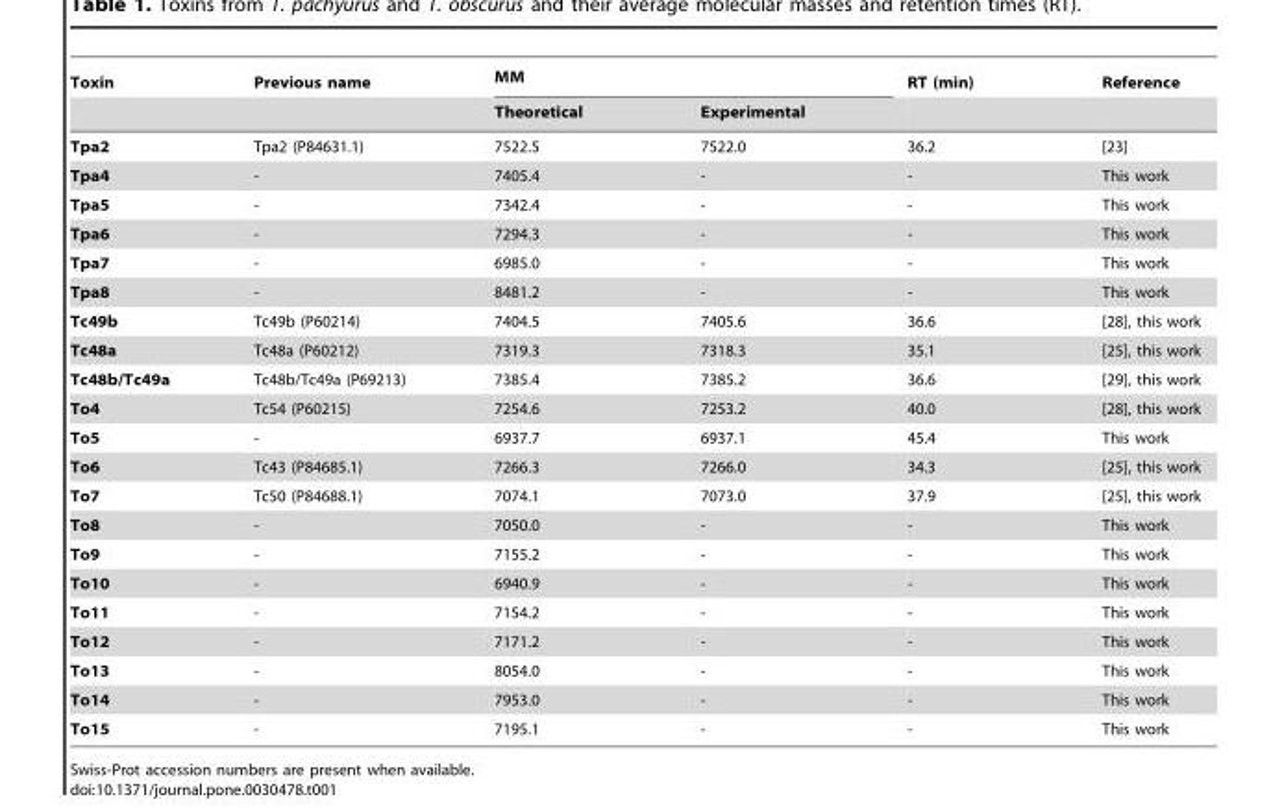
<table><thead><tr><td rowspan="2">Toxin</td><td rowspan="2">Previous name</td><td colspan="2">MM</td><td rowspan="2">RT (min)</td><td rowspan="2">Reference</td></tr><tr><td>Theoretical</td><td>Experimental</td></tr></thead><tbody><tr><td>Tpa2</td><td>Tpa2 (P84631.1)</td><td>7522.5</td><td>7522.0</td><td>36.2</td><td>[23]</td></tr><tr><td>Tpa4</td><td>-</td><td>7405.4</td><td>-</td><td>-</td><td>This work</td></tr><tr><td>Tpa5</td><td>-</td><td>7342.4</td><td>-</td><td>-</td><td>This work</td></tr><tr><td>Tpa6</td><td>-</td><td>7294.3</td><td>-</td><td>-</td><td>This work</td></tr><tr><td>Tpa7</td><td>-</td><td>6985.0</td><td>-</td><td>-</td><td>This work</td></tr><tr><td>Tpa8</td><td>-</td><td>8481.2</td><td>-</td><td>-</td><td>This work</td></tr><tr><td>Tc49b</td><td>Tc49b (P60214)</td><td>7404.5</td><td>7405.6</td><td>36.6</td><td>[28], this work</td></tr><tr><td>Tc48a</td><td>Tc48a (P60212)</td><td>7319.3</td><td>7318.3</td><td>35.1</td><td>[25], this work</td></tr><tr><td>Tc48b/Tc49a</td><td>Tc48b/Tc49a (P69213)</td><td>7385.4</td><td>7385.2</td><td>36.6</td><td>[29], this work</td></tr><tr><td>To4</td><td>Tc54 (P60215)</td><td>7254.6</td><td>7253.2</td><td>40.0</td><td>[28], this work</td></tr><tr><td>To5</td><td>-</td><td>6937.7</td><td>6937.1</td><td>45.4</td><td>This work</td></tr><tr><td>To6</td><td>Tc43 (P84685.1)</td><td>7266.3</td><td>7266.0</td><td>34.3</td><td>[25], this work</td></tr><tr><td>To7</td><td>Tc50 (P84688.1)</td><td>7074.1</td><td>7073.0</td><td>37.9</td><td>[25], this work</td></tr><tr><td>To8</td><td>-</td><td>7050.0</td><td>-</td><td>-</td><td>This work</td></tr><tr><td>To9</td><td>-</td><td>7155.2</td><td>-</td><td>-</td><td>This work</td></tr><tr><td>To10</td><td>-</td><td>6940.9</td><td>-</td><td>-</td><td>This work</td></tr><tr><td>To11</td><td>-</td><td>7154.2</td><td>-</td><td>-</td><td>This work</td></tr><tr><td>To12</td><td>-</td><td>7171.2</td><td>-</td><td>-</td><td>This work</td></tr><tr><td>To13</td><td>-</td><td>8054.0</td><td>-</td><td>-</td><td>This work</td></tr><tr><td>To14</td><td>-</td><td>7953.0</td><td>-</td><td>-</td><td>This work</td></tr><tr><td>To15</td><td>-</td><td>7195.1</td><td>-</td><td>-</td><td>This work</td></tr></tbody></table>